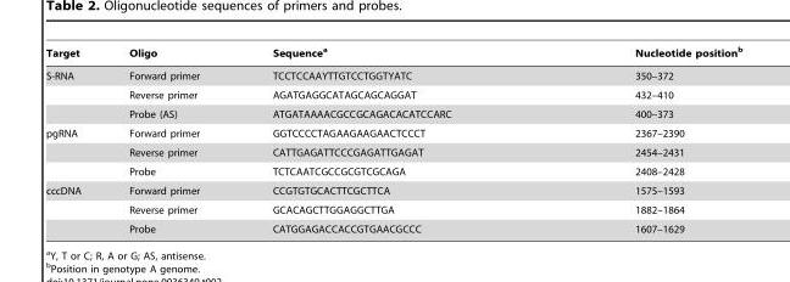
<table><thead><tr><td>Target</td><td>Oligo</td><td>Sequence<sup>a</sup></td><td>Nucleotide position<sup>b</sup></td></tr></thead><tbody><tr><td rowspan="3">S-RNA</td><td>Forward primer</td><td>TCCTCCAAYTTGTCCTGGTYATC</td><td>350–372</td></tr><tr><td>Reverse primer</td><td>AGATGAGGCATAGCAGCAGGAT</td><td>432–410</td></tr><tr><td>Probe (AS)</td><td>ATGATAAAACGCCGCAGACACATCCARC</td><td>400–373</td></tr><tr><td rowspan="3">pgRNA</td><td>Forward primer</td><td>GGTCCCCTAGAAGAAGAACTCCCT</td><td>2367–2390</td></tr><tr><td>Reverse primer</td><td>CATTGAGATTCCCGAGATTGAGAT</td><td>2454–2431</td></tr><tr><td>Probe</td><td>TCTCAATCGCCGCGTCGCAGA</td><td>2408–2428</td></tr><tr><td rowspan="3">cccDNA</td><td>Forward primer</td><td>CCGTGTGCACTTCGCTTCA</td><td>1575–1593</td></tr><tr><td>Reverse primer</td><td>GCACAGCTTGGAGGCTTGA</td><td>1882–1864</td></tr><tr><td>Probe</td><td>CATGGAGACCACCGTGAACGCCC</td><td>1607–1629</td></tr></tbody></table>